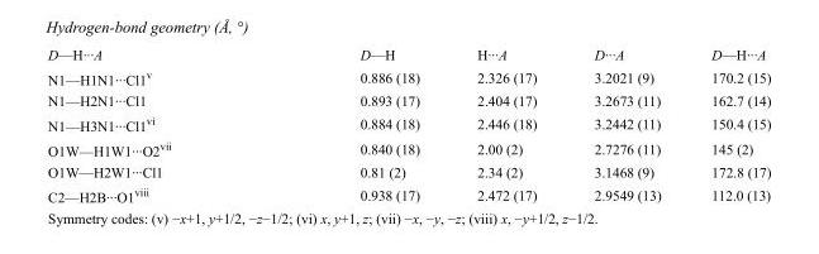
<table><tbody><tr><td>D—H···A</td><td>D—H</td><td>H···A</td><td>D···A</td><td>D—H···A</td></tr><tr><td>N1—H1N1···Cl1<sup>v</sup></td><td>0.886 (18)</td><td>2.326 (17)</td><td>3.2021 (9)</td><td>170.2 (15)</td></tr><tr><td>N1—H2N1···Cl1</td><td>0.893 (17)</td><td>2.404 (17)</td><td>3.2673 (11)</td><td>162.7 (14)</td></tr><tr><td>N1—H3N1···Cl1<sup>vi</sup></td><td>0.884 (18)</td><td>2.446 (18)</td><td>3.2442 (11)</td><td>150.4 (15)</td></tr><tr><td>O1W—H1W1···O2<sup>vii</sup></td><td>0.840 (18)</td><td>2.00 (2)</td><td>2.7276 (11)</td><td>145 (2)</td></tr><tr><td>O1W—H2W1···Cl1</td><td>0.81 (2)</td><td>2.34 (2)</td><td>3.1468 (9)</td><td>172.8 (17)</td></tr><tr><td>C2—H2B···O1<sup>viii</sup></td><td>0.938 (17)</td><td>2.472 (17)</td><td>2.9549 (13)</td><td>112.0 (13)</td></tr></tbody></table>